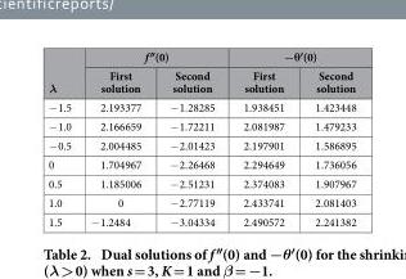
<table><thead><tr><td rowspan="2">λ</td><td colspan="2">f ″(0)</td><td colspan="2">−θ′(0)</td></tr><tr><td>First solution</td><td>Second solution</td><td>First solution</td><td>Second solution</td></tr></thead><tbody><tr><td>− 1.5</td><td>2.193377</td><td>− 1.28285</td><td>1.938451</td><td>1.423448</td></tr><tr><td>− 1.0</td><td>2.166659</td><td>− 1.72211</td><td>2.081987</td><td>1.479233</td></tr><tr><td>− 0.5</td><td>2.004485</td><td>− 2.01423</td><td>2.197901</td><td>1.586895</td></tr><tr><td>0</td><td>1.704967</td><td>− 2.26468</td><td>2.294649</td><td>1.736056</td></tr><tr><td>0.5</td><td>1.185006</td><td>− 2.51231</td><td>2.374083</td><td>1.907967</td></tr><tr><td>1.0</td><td>0</td><td>− 2.77119</td><td>2.433741</td><td>2.081403</td></tr><tr><td>1.5</td><td>− 1.2484</td><td>− 3.04334</td><td>2.490572</td><td>2.241382</td></tr></tbody></table>